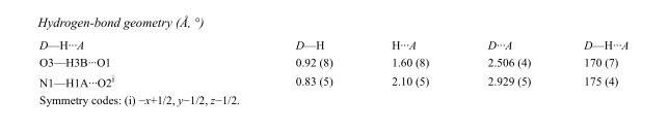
<table><tbody><tr><td>D—H···A</td><td>D—H</td><td>H···A</td><td>D···A</td><td>D—H···A</td></tr><tr><td>O3—H3B···O1</td><td>0.92 (8)</td><td>1.60 (8)</td><td>2.506 (4)</td><td>170 (7)</td></tr><tr><td>N1—H1A···O2<sup>i</sup></td><td>0.83 (5)</td><td>2.10 (5)</td><td>2.929 (5)</td><td>175 (4)</td></tr></tbody></table>